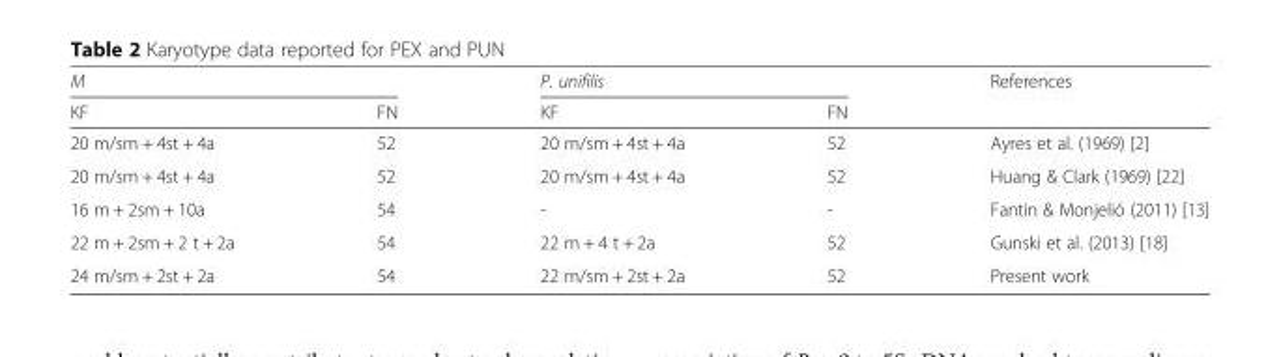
<table><thead><tr><td colspan="2">M</td><td colspan="2">P. unifilis</td><td rowspan="2">References</td></tr><tr><td>KF</td><td>FN</td><td>KF</td><td>FN</td></tr></thead><tbody><tr><td>20 m/sm + 4st + 4a</td><td>52</td><td>20 m/sm + 4st + 4a</td><td>52</td><td>Ayres et al. (1969) [2]</td></tr><tr><td>20 m/sm + 4st + 4a</td><td>52</td><td>20 m/sm + 4st + 4a</td><td>52</td><td>Huang &amp; Clark (1969) [22]</td></tr><tr><td>16 m + 2sm + 10a</td><td>54</td><td>-</td><td>-</td><td>Fantin &amp; Monjelió (2011) [13]</td></tr><tr><td>22 m + 2sm + 2 t + 2a</td><td>54</td><td>22 m + 4 t + 2a</td><td>52</td><td>Gunski et al. (2013) [18]</td></tr><tr><td>24 m/sm + 2st + 2a</td><td>54</td><td>22 m/sm + 2st + 2a</td><td>52</td><td>Present work</td></tr></tbody></table>